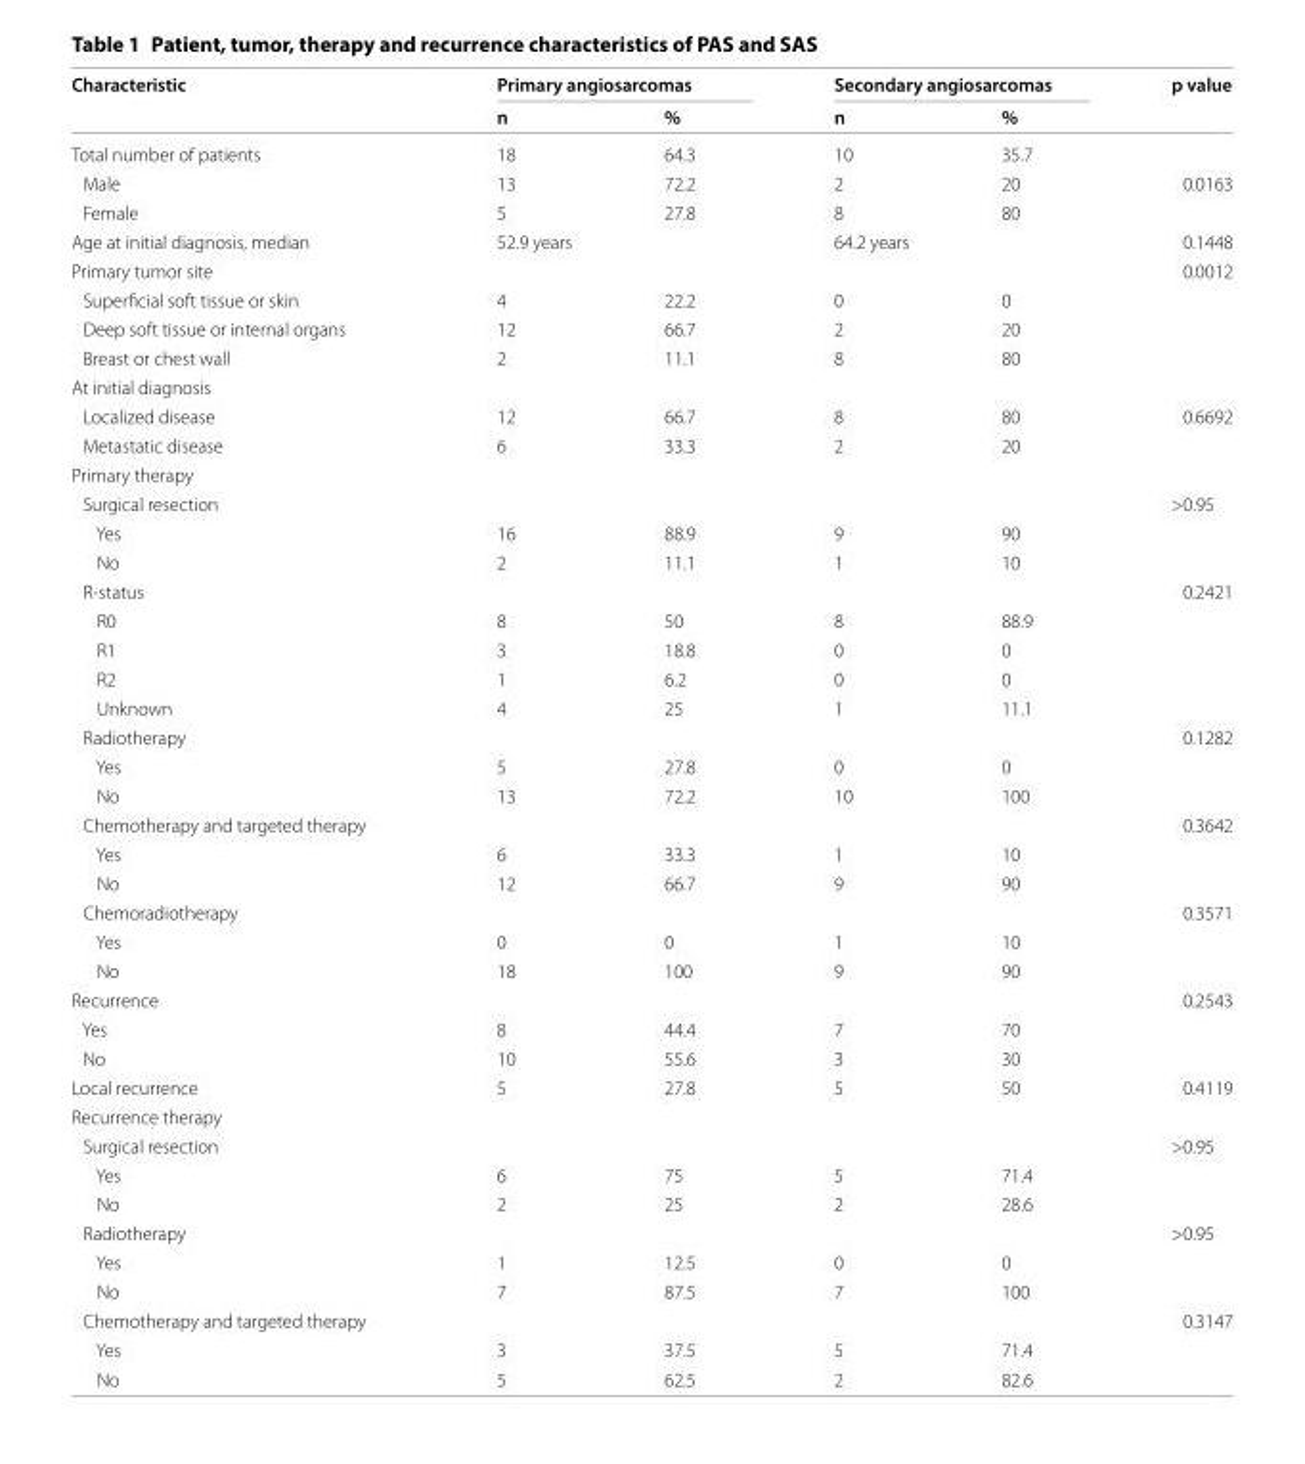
<table><thead><tr><td rowspan="2">Characteristic</td><td colspan="2">Primary angiosarcomas</td><td colspan="2">Secondary angiosarcomas</td><td rowspan="2">p value</td></tr><tr><td>n</td><td>%</td><td>n</td><td>%</td></tr></thead><tbody><tr><td>Total number of patients</td><td>18</td><td>64.3</td><td>10</td><td>35.7</td><td></td></tr><tr><td>Male</td><td>13</td><td>72.2</td><td>2</td><td>20</td><td rowspan="2">0.0163</td></tr><tr><td>Female</td><td>5</td><td>27.8</td><td>8</td><td>80</td></tr><tr><td>Age at initial diagnosis, median</td><td colspan="2">52.9 years</td><td colspan="2">64.2 years</td><td>0.1448</td></tr><tr><td>Primary tumor site</td><td></td><td></td><td></td><td></td><td>0.0012</td></tr><tr><td>Superficial soft tissue or skin</td><td>4</td><td>22.2</td><td>0</td><td>0</td><td></td></tr><tr><td>Deep soft tissue or internal organs</td><td>12</td><td>66.7</td><td>2</td><td>20</td><td></td></tr><tr><td>Breast or chest wall</td><td>2</td><td>11.1</td><td>8</td><td>80</td><td></td></tr><tr><td colspan="6">At initial diagnosis</td></tr><tr><td>Localized disease</td><td>12</td><td>66.7</td><td>8</td><td>80</td><td rowspan="2">0.6692</td></tr><tr><td>Metastatic disease</td><td>6</td><td>33.3</td><td>2</td><td>20</td></tr><tr><td colspan="6">Primary therapy</td></tr><tr><td>Surgical resection</td><td></td><td></td><td></td><td></td><td>&gt;0.95</td></tr><tr><td>Yes</td><td>16</td><td>88.9</td><td>9</td><td>90</td><td></td></tr><tr><td>No</td><td>2</td><td>11.1</td><td>1</td><td>10</td><td></td></tr><tr><td>R-status</td><td></td><td></td><td></td><td></td><td>0.2421</td></tr><tr><td>R0</td><td>8</td><td>50</td><td>8</td><td>88.9</td><td></td></tr><tr><td>R1</td><td>3</td><td>18.8</td><td>0</td><td>0</td><td></td></tr><tr><td>R2</td><td>1</td><td>6.2</td><td>0</td><td>0</td><td></td></tr><tr><td>Unknown</td><td>4</td><td>25</td><td>1</td><td>11.1</td><td></td></tr><tr><td>Radiotherapy</td><td></td><td></td><td></td><td></td><td>0.1282</td></tr><tr><td>Yes</td><td>5</td><td>27.8</td><td>0</td><td>0</td><td></td></tr><tr><td>No</td><td>13</td><td>72.2</td><td>10</td><td>100</td><td></td></tr><tr><td>Chemotherapy and targeted therapy</td><td></td><td></td><td></td><td></td><td>0.3642</td></tr><tr><td>Yes</td><td>6</td><td>33.3</td><td>1</td><td>10</td><td></td></tr><tr><td>No</td><td>12</td><td>66.7</td><td>9</td><td>90</td><td></td></tr><tr><td>Chemoradiotherapy</td><td></td><td></td><td></td><td></td><td>0.3571</td></tr><tr><td>Yes</td><td>0</td><td>0</td><td>1</td><td>10</td><td></td></tr><tr><td>No</td><td>18</td><td>100</td><td>9</td><td>90</td><td></td></tr><tr><td>Recurrence</td><td></td><td></td><td></td><td></td><td>0.2543</td></tr><tr><td>Yes</td><td>8</td><td>44.4</td><td>7</td><td>70</td><td></td></tr><tr><td>No</td><td>10</td><td>55.6</td><td>3</td><td>30</td><td></td></tr><tr><td>Local recurrence</td><td>5</td><td>27.8</td><td>5</td><td>50</td><td>0.4119</td></tr><tr><td colspan="6">Recurrence therapy</td></tr><tr><td>Surgical resection</td><td></td><td></td><td></td><td></td><td>&gt;0.95</td></tr><tr><td>Yes</td><td>6</td><td>75</td><td>5</td><td>71.4</td><td></td></tr><tr><td>No</td><td>2</td><td>25</td><td>2</td><td>28.6</td><td></td></tr><tr><td>Radiotherapy</td><td></td><td></td><td></td><td></td><td>&gt;0.95</td></tr><tr><td>Yes</td><td>1</td><td>12.5</td><td>0</td><td>0</td><td></td></tr><tr><td>No</td><td>7</td><td>87.5</td><td>7</td><td>100</td><td></td></tr><tr><td>Chemotherapy and targeted therapy</td><td></td><td></td><td></td><td></td><td>0.3147</td></tr><tr><td>Yes</td><td>3</td><td>37.5</td><td>5</td><td>71.4</td><td></td></tr><tr><td>No</td><td>5</td><td>62.5</td><td>2</td><td>82.6</td><td></td></tr></tbody></table>